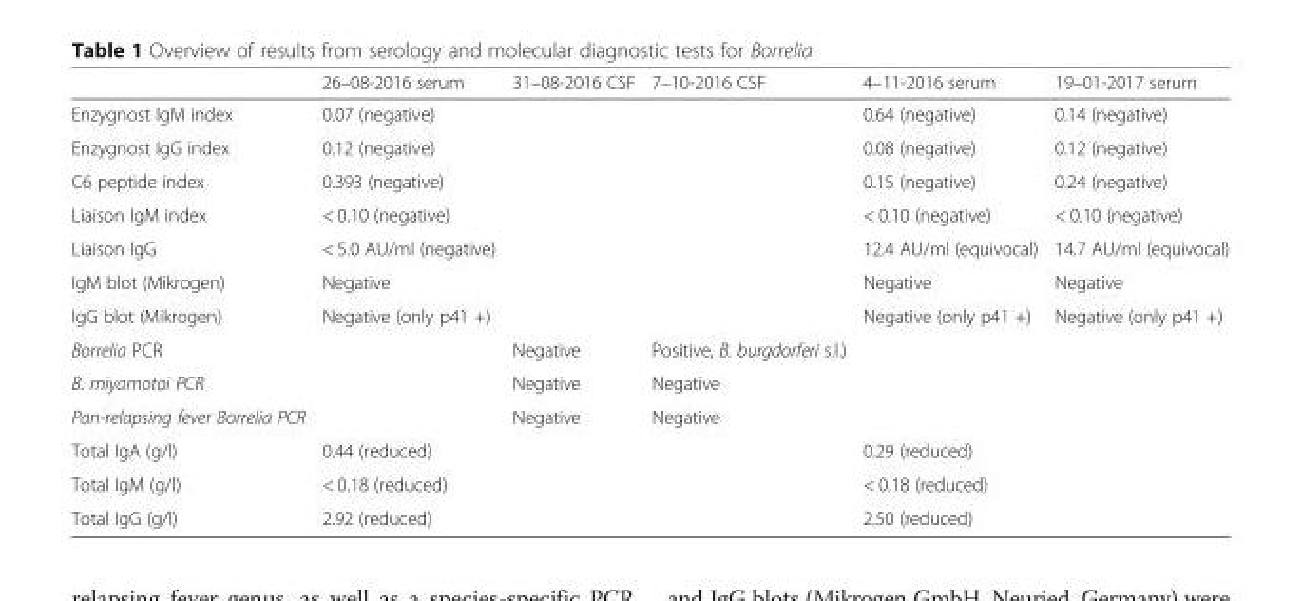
<table><thead><tr><td></td><td>26–08-2016 serum</td><td>31–08-2016 CSF</td><td>7–10-2016 CSF</td><td>4–11-2016 serum</td><td>19–01-2017 serum</td></tr></thead><tbody><tr><td>Enzygnost IgM index</td><td>0.07 (negative)</td><td></td><td></td><td>0.64 (negative)</td><td>0.14 (negative)</td></tr><tr><td>Enzygnost IgG index</td><td>0.12 (negative)</td><td></td><td></td><td>0.08 (negative)</td><td>0.12 (negative)</td></tr><tr><td>C6 peptide index</td><td>0.393 (negative)</td><td></td><td></td><td>0.15 (negative)</td><td>0.24 (negative)</td></tr><tr><td>Liaison IgM index</td><td>&lt; 0.10 (negative)</td><td></td><td></td><td>&lt; 0.10 (negative)</td><td>&lt; 0.10 (negative)</td></tr><tr><td>Liaison IgG</td><td>&lt; 5.0 AU/ml (negative)</td><td></td><td></td><td>12.4 AU/ml (equivocal)</td><td>14.7 AU/ml (equivocal)</td></tr><tr><td>IgM blot (Mikrogen)</td><td>Negative</td><td></td><td></td><td>Negative</td><td>Negative</td></tr><tr><td>IgG blot (Mikrogen)</td><td>Negative (only p41 +)</td><td></td><td></td><td>Negative (only p41 +)</td><td>Negative (only p41 +)</td></tr><tr><td>Borrelia PCR</td><td></td><td>Negative</td><td>Positive, B. burgdorferi s.l.)</td><td></td><td></td></tr><tr><td>B. miyamotoi PCR</td><td></td><td>Negative</td><td>Negative</td><td></td><td></td></tr><tr><td>Pan-relapsing fever Borrelia PCR</td><td></td><td>Negative</td><td>Negative</td><td></td><td></td></tr><tr><td>Total IgA (g/l)</td><td>0.44 (reduced)</td><td></td><td></td><td>0.29 (reduced)</td><td></td></tr><tr><td>Total IgM (g/l)</td><td>&lt; 0.18 (reduced)</td><td></td><td></td><td>&lt; 0.18 (reduced)</td><td></td></tr><tr><td>Total IgG (g/l)</td><td>2.92 (reduced)</td><td></td><td></td><td>2.50 (reduced)</td><td></td></tr></tbody></table>